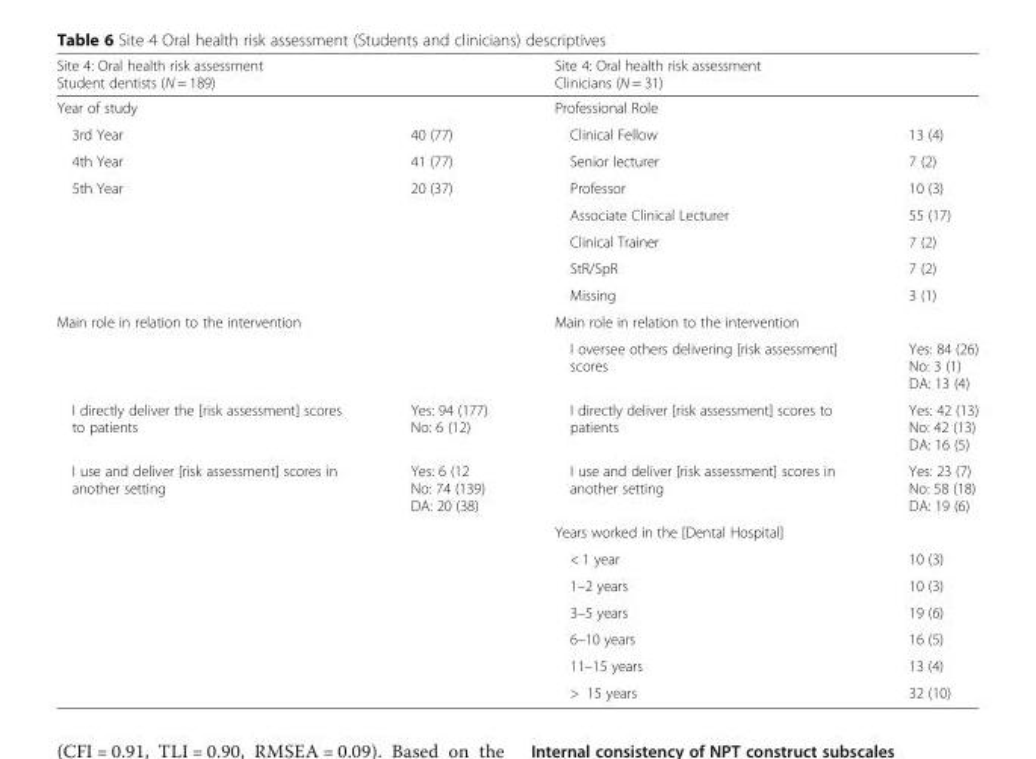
<table><thead><tr><td colspan="2">Site 4: Oral health risk assessment Student dentists (N = 189)</td><td colspan="2">Site 4: Oral health risk assessment Clinicians (N = 31)</td></tr><tr><td>Year of study</td><td></td><td>Professional Role</td><td></td></tr></thead><tbody><tr><td>3rd Year</td><td>40 (77)</td><td>Clinical Fellow</td><td>13 (4)</td></tr><tr><td>4th Year</td><td>41 (77)</td><td>Senior lecturer</td><td>7 (2)</td></tr><tr><td rowspan="5">5th Year</td><td>20 (37)</td><td>Professor</td><td>10 (3)</td></tr><tr><td></td><td>Associate Clinical Lecturer</td><td>55 (17)</td></tr><tr><td></td><td>Clinical Trainer</td><td>7 (2)</td></tr><tr><td></td><td>StR/SpR</td><td>7 (2)</td></tr><tr><td></td><td>Missing</td><td>3 (1)</td></tr><tr><td rowspan="2">Main role in relation to the intervention</td><td></td><td>Main role in relation to the intervention</td><td></td></tr><tr><td></td><td>I oversee others delivering [risk assessment] scores</td><td>Yes: 84 (26) No: 3 (1) DA: 13 (4)</td></tr><tr><td>I directly deliver the [risk assessment] scores to patients</td><td>Yes: 94 (177) No: 6 (12)</td><td>I directly deliver [risk assessment] scores to patients</td><td>Yes: 42 (13) No: 42 (13) DA: 16 (5)</td></tr><tr><td rowspan="8">I use and deliver [risk assessment] scores in another setting</td><td>Yes: 6 (12 No: 74 (139) DA: 20 (38)</td><td>I use and deliver [risk assessment] scores in another setting</td><td>Yes: 23 (7) No: 58 (18) DA: 19 (6)</td></tr><tr><td></td><td>Years worked in the [Dental Hospital]</td><td></td></tr><tr><td></td><td>&lt; 1 year</td><td>10 (3)</td></tr><tr><td></td><td>1–2 years</td><td>10 (3)</td></tr><tr><td></td><td>3–5 years</td><td>19 (6)</td></tr><tr><td></td><td>6–10 years</td><td>16 (5)</td></tr><tr><td></td><td>11–15 years</td><td>13 (4)</td></tr><tr><td></td><td>&gt; 15 years</td><td>32 (10)</td></tr></tbody></table>